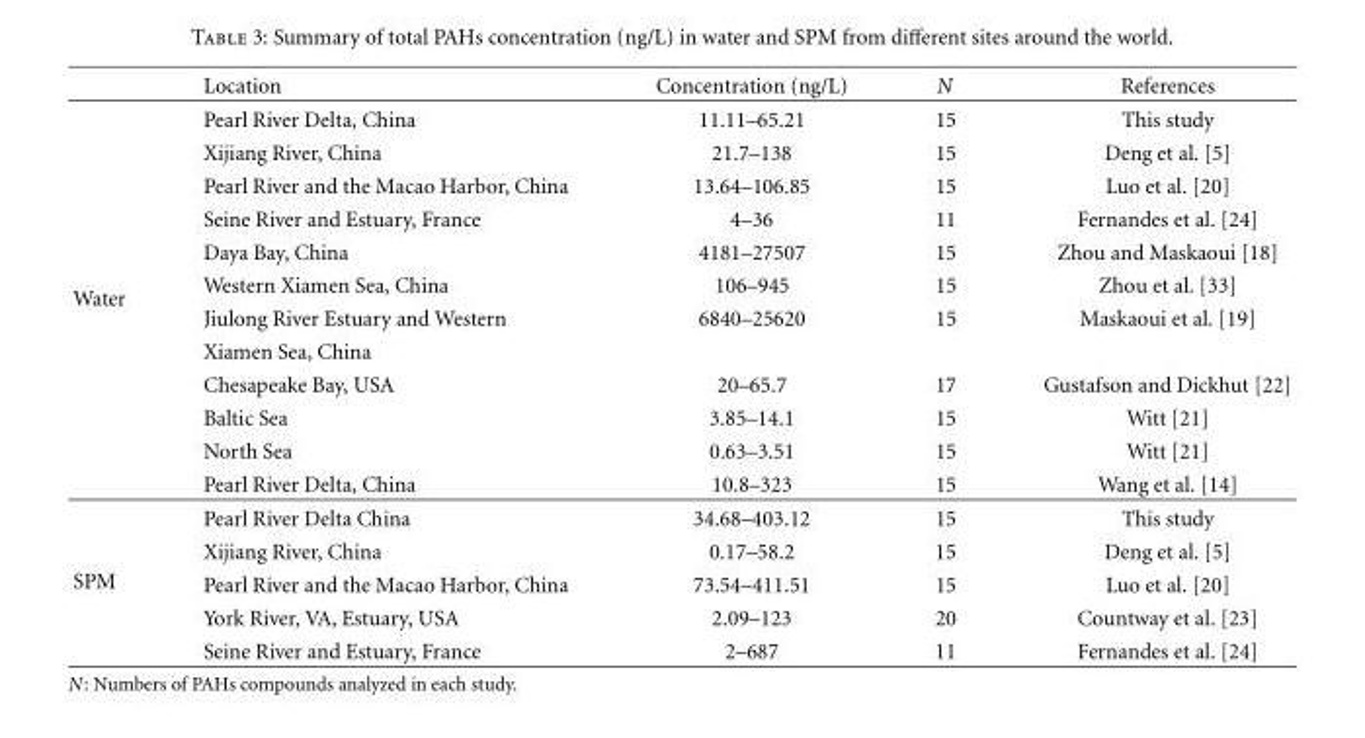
<table><thead><tr><td></td><td>Location</td><td>Concentration (ng/L)</td><td>N</td><td>References</td></tr></thead><tbody><tr><td rowspan="12">Water</td><td>Pearl River Delta, China</td><td>11.11–65.21</td><td>15</td><td>This study</td></tr><tr><td>Xijiang River, China</td><td>21.7–138</td><td>15</td><td>Deng et al. [5]</td></tr><tr><td>Pearl River and the Macao Harbor, China</td><td>13.64–106.85</td><td>15</td><td>Luo et al. [20]</td></tr><tr><td>Seine River and Estuary, France</td><td>4–36</td><td>11</td><td>Fernandes et al. [24]</td></tr><tr><td>Daya Bay, China</td><td>4181–27507</td><td>15</td><td>Zhou and Maskaoui [18]</td></tr><tr><td>Western Xiamen Sea, China</td><td>106–945</td><td>15</td><td>Zhou et al. [33]</td></tr><tr><td>Jiulong River Estuary and Western</td><td>6840–25620</td><td>15</td><td>Maskaoui et al. [19]</td></tr><tr><td>Xiamen Sea, China</td><td></td><td></td><td></td></tr><tr><td>Chesapeake Bay, USA</td><td>20–65.7</td><td>17</td><td>Gustafson and Dickhut [22]</td></tr><tr><td>Baltic Sea</td><td>3.85–14.1</td><td>15</td><td>Witt [21]</td></tr><tr><td>North Sea</td><td>0.63–3.51</td><td>15</td><td>Witt [21]</td></tr><tr><td>Pearl River Delta, China</td><td>10.8–323</td><td>15</td><td>Wang et al. [14]</td></tr><tr><td rowspan="5">SPM</td><td>Pearl River Delta China</td><td>34.68–403.12</td><td>15</td><td>This study</td></tr><tr><td>Xijiang River, China</td><td>0.17–58.2</td><td>15</td><td>Deng et al. [5]</td></tr><tr><td>Pearl River and the Macao Harbor, China</td><td>73.54–411.51</td><td>15</td><td>Luo et al. [20]</td></tr><tr><td>York River, VA, Estuary, USA</td><td>2.09–123</td><td>20</td><td>Countway et al. [23]</td></tr><tr><td>Seine River and Estuary, France</td><td>2–687</td><td>11</td><td>Fernandes et al. [24]</td></tr></tbody></table>